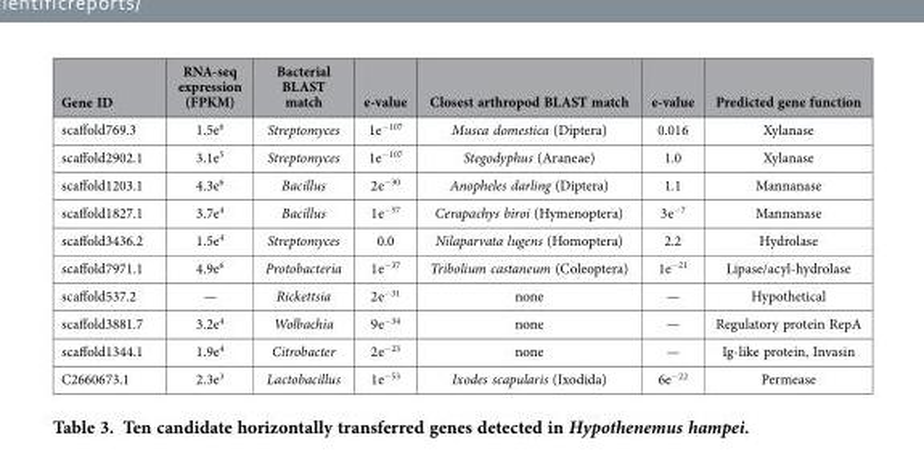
<table><thead><tr><td>Gene ID</td><td>RNA-seq expression (FPKM)</td><td>Bacterial BLAST match</td><td>e-value</td><td>Closest arthropod BLAST match</td><td>e-value</td><td>Predicted gene function</td></tr></thead><tbody><tr><td>scaffold769.3</td><td>1.5e<sup>6</sup></td><td>Streptomyces</td><td>1e<sup>−107</sup></td><td>Musca domestica (Diptera)</td><td>0.016</td><td>Xylanase</td></tr><tr><td>scaffold2902.1</td><td>3.1e<sup>5</sup></td><td>Streptomyces</td><td>1e<sup>−107</sup></td><td>Stegodyphus (Araneae)</td><td>1.0</td><td>Xylanase</td></tr><tr><td>scaffold1203.1</td><td>4.3e<sup>6</sup></td><td>Bacillus</td><td>2e<sup>−30</sup></td><td>Anopheles darling (Diptera)</td><td>1.1</td><td>Mannanase</td></tr><tr><td>scaffold1827.1</td><td>3.7e<sup>4</sup></td><td>Bacillus</td><td>1e<sup>−57</sup></td><td>Cerapachys biroi (Hymenoptera)</td><td>3e<sup>−7</sup></td><td>Mannanase</td></tr><tr><td>scaffold3436.2</td><td>1.5e<sup>4</sup></td><td>Streptomyces</td><td>0.0</td><td>Nilaparvata lugens (Homoptera)</td><td>2.2</td><td>Hydrolase</td></tr><tr><td>scaffold7971.1</td><td>4.9e<sup>6</sup></td><td>Protobacteria</td><td>1e<sup>−37</sup></td><td>Tribolium castaneum (Coleoptera)</td><td>1e<sup>−21</sup></td><td>Lipase/acyl-hydrolase</td></tr><tr><td>scaffold537.2</td><td>—</td><td>Rickettsia</td><td>2e<sup>−31</sup></td><td>none</td><td>—</td><td>Hypothetical</td></tr><tr><td>scaffold3881.7</td><td>3.2e<sup>4</sup></td><td>Wolbachia</td><td>9e<sup>−34</sup></td><td>none</td><td>—</td><td>Regulatory protein RepA</td></tr><tr><td>scaffold1344.1</td><td>1.9e<sup>4</sup></td><td>Citrobacter</td><td>2e<sup>−23</sup></td><td>none</td><td>—</td><td>Ig-like protein, Invasin</td></tr><tr><td>C2660673.1</td><td>2.3e<sup>3</sup></td><td>Lactobacillus</td><td>1e<sup>−53</sup></td><td>Ixodes scapularis (Ixodida)</td><td>6e<sup>−22</sup></td><td>Permease</td></tr></tbody></table>